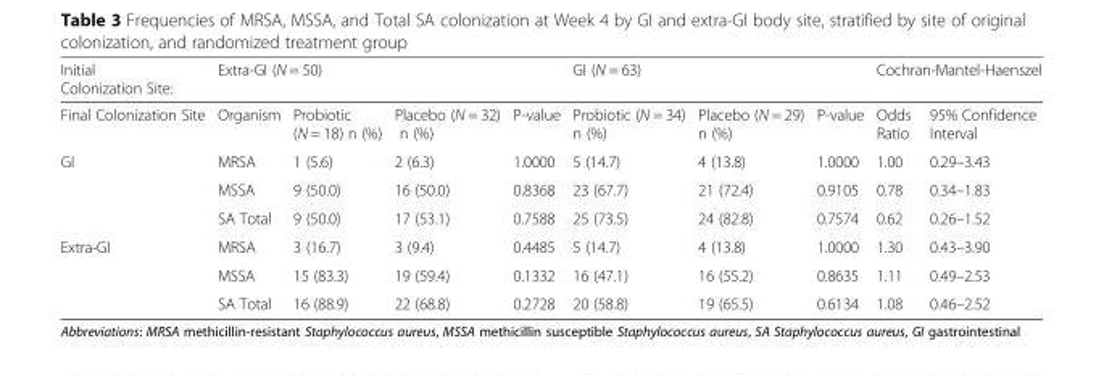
<table><thead><tr><td rowspan="2">Initial Colonization Site: Final Colonization Site</td><td colspan="4">Extra-GI (N = 50)</td><td colspan="3">GI (N = 63)</td><td colspan="2">Cochran-Mantel-Haenszel</td></tr><tr><td>Organism</td><td>Probiotic (N = 18) n (%)</td><td>Placebo (N = 32) n (%)</td><td>P-value</td><td>Probiotic (N = 34) n (%)</td><td>Placebo (N = 29) n (%)</td><td>P-value</td><td>Odds Ratio</td><td>95% Confidence Interval</td></tr></thead><tbody><tr><td rowspan="3">GI</td><td>MRSA</td><td>1 (5.6)</td><td>2 (6.3)</td><td>1.0000</td><td>5 (14.7)</td><td>4 (13.8)</td><td>1.0000</td><td>1.00</td><td>0.29–3.43</td></tr><tr><td>MSSA</td><td>9 (50.0)</td><td>16 (50.0)</td><td>0.8368</td><td>23 (67.7)</td><td>21 (72.4)</td><td>0.9105</td><td>0.78</td><td>0.34–1.83</td></tr><tr><td>SA Total</td><td>9 (50.0)</td><td>17 (53.1)</td><td>0.7588</td><td>25 (73.5)</td><td>24 (82.8)</td><td>0.7574</td><td>0.62</td><td>0.26–1.52</td></tr><tr><td rowspan="3">Extra-GI</td><td>MRSA</td><td>3 (16.7)</td><td>3 (9.4)</td><td>0.4485</td><td>5 (14.7)</td><td>4 (13.8)</td><td>1.0000</td><td>1.30</td><td>0.43–3.90</td></tr><tr><td>MSSA</td><td>15 (83.3)</td><td>19 (59.4)</td><td>0.1332</td><td>16 (47.1)</td><td>16 (55.2)</td><td>0.8635</td><td>1.11</td><td>0.49–2.53</td></tr><tr><td>SA Total</td><td>16 (88.9)</td><td>22 (68.8)</td><td>0.2728</td><td>20 (58.8)</td><td>19 (65.5)</td><td>0.6134</td><td>1.08</td><td>0.46–2.52</td></tr></tbody></table>